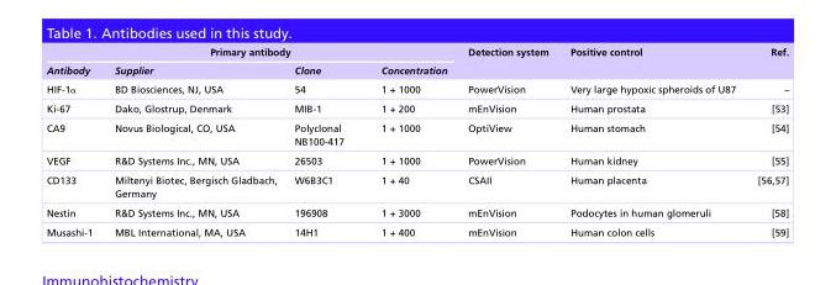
<table><thead><tr><td colspan="4">Primary antibody</td><td rowspan="2">Detection system</td><td rowspan="2">Positive control</td><td rowspan="2">Ref.</td></tr><tr><td>Antibody</td><td>Supplier</td><td>Clone</td><td>Concentration</td></tr></thead><tbody><tr><td>HIF-1α</td><td>BD Biosciences, NJ, USA</td><td>54</td><td>1 + 1000</td><td>PowerVision</td><td>Very large hypoxic spheroids of U87</td><td>–</td></tr><tr><td>Ki-67</td><td>Dako, Glostrup, Denmark</td><td>MIB-1</td><td>1 + 200</td><td>mEnVision</td><td>Human prostata</td><td>[53]</td></tr><tr><td>CA9</td><td>Novus Biological, CO, USA</td><td>Polyclonal NB100-417</td><td>1 + 1000</td><td>OptiView</td><td>Human stomach</td><td>[54]</td></tr><tr><td>VEGF</td><td>R&amp;D Systems Inc., MN, USA</td><td>26503</td><td>1 + 1000</td><td>PowerVision</td><td>Human kidney</td><td>[55]</td></tr><tr><td>CD133</td><td>Miltenyi Biotec, Bergisch Gladbach, Germany</td><td>W6B3C1</td><td>1 + 40</td><td>CSAII</td><td>Human placenta</td><td>[56,57]</td></tr><tr><td>Nestin</td><td>R&amp;D Systems Inc., MN, USA</td><td>196908</td><td>1 + 3000</td><td>mEnVision</td><td>Podocytes in human glomeruli</td><td>[58]</td></tr><tr><td>Musashi-1</td><td>MBL International, MA, USA</td><td>14H1</td><td>1 + 400</td><td>mEnVision</td><td>Human colon cells</td><td>[59]</td></tr></tbody></table>